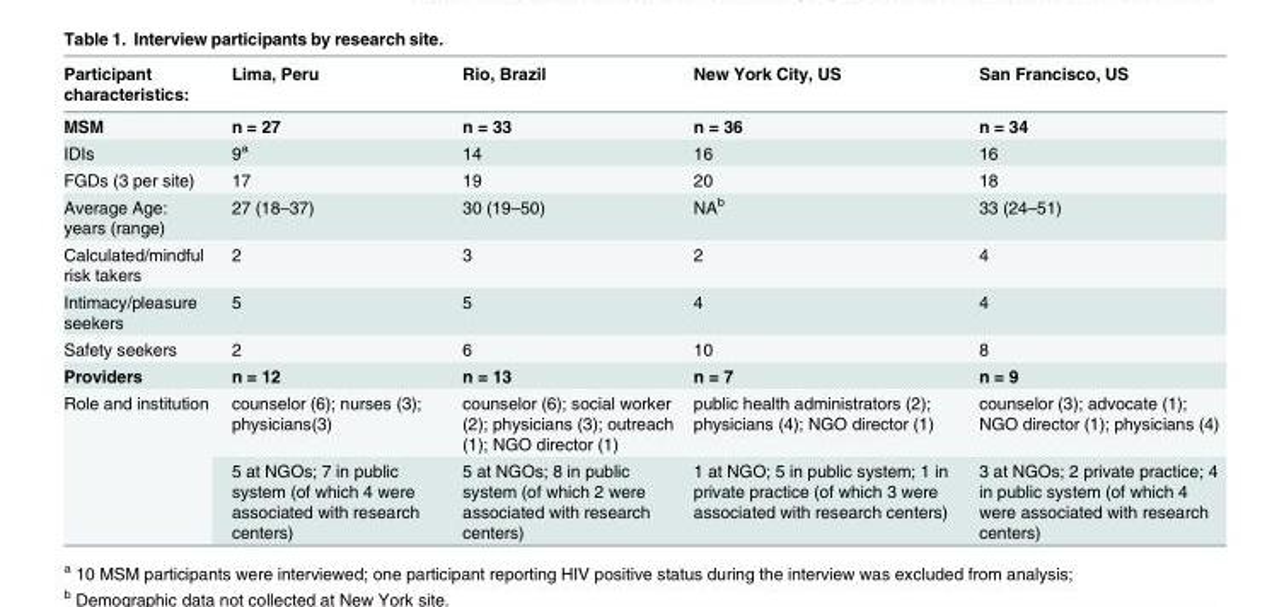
<table><thead><tr><td>Participant characteristics:</td><td>Lima, Peru</td><td>Rio, Brazil</td><td>New York City, US</td><td>San Francisco, US</td></tr></thead><tbody><tr><td>MSM</td><td>n = 27</td><td>n = 33</td><td>n = 36</td><td>n = 34</td></tr><tr><td>IDIs</td><td>9<sup>a</sup></td><td>14</td><td>16</td><td>16</td></tr><tr><td>FGDs (3 per site)</td><td>17</td><td>19</td><td>20</td><td>18</td></tr><tr><td>Average Age: years (range)</td><td>27 (18–37)</td><td>30 (19–50)</td><td>NA<sup>b</sup></td><td>33 (24–51)</td></tr><tr><td>Calculated/mindful risk takers</td><td>2</td><td>3</td><td>2</td><td>4</td></tr><tr><td>Intimacy/pleasure seekers</td><td>5</td><td>5</td><td>4</td><td>4</td></tr><tr><td>Safety seekers</td><td>2</td><td>6</td><td>10</td><td>8</td></tr><tr><td>Providers</td><td>n = 12</td><td>n = 13</td><td>n = 7</td><td>n = 9</td></tr><tr><td rowspan="2">Role and institution</td><td>counselor (6); nurses (3); physicians(3)</td><td>counselor (6); social worker (2); physicians (3); outreach (1); NGO director (1)</td><td>public health administrators (2); physicians (4); NGO director (1)</td><td>counselor (3); advocate (1); NGO director (1); physicians (4)</td></tr><tr><td>5 at NGOs; 7 in public system (of which 4 were associated with research centers)</td><td>5 at NGOs; 8 in public system (of which 2 were associated with research centers)</td><td>1 at NGO; 5 in public system; 1 in private practice (of which 3 were associated with research centers)</td><td>3 at NGOs; 2 private practice; 4 in public system (of which 4 were associated with research centers)</td></tr></tbody></table>